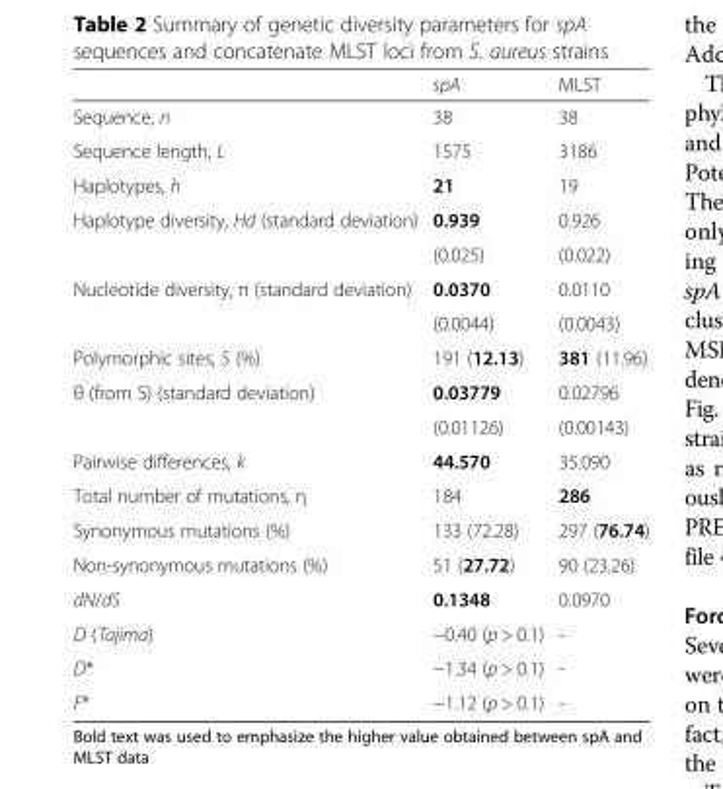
<table><thead><tr><td></td><td>spA</td><td>MLST</td></tr></thead><tbody><tr><td>Sequence, n</td><td>38</td><td>38</td></tr><tr><td>Sequence length, L</td><td>1575</td><td>3186</td></tr><tr><td>Haplotypes, h</td><td>21</td><td>19</td></tr><tr><td rowspan="2">Haplotype diversity, Hd (standard deviation)</td><td>0.939</td><td>0.926</td></tr><tr><td>(0.025)</td><td>(0.022)</td></tr><tr><td rowspan="2">Nucleotide diversity, π (standard deviation)</td><td>0.0370</td><td>0.0110</td></tr><tr><td>(0.0044)</td><td>(0.0043)</td></tr><tr><td>Polymorphic sites, S (%)</td><td>191 (12.13)</td><td>381 (11.96)</td></tr><tr><td rowspan="2">θ (from S) (standard deviation)</td><td>0.03779</td><td>0.02796</td></tr><tr><td>(0.01126)</td><td>(0.00143)</td></tr><tr><td>Pairwise differences, k</td><td>44.570</td><td>35.090</td></tr><tr><td>Total number of mutations, η</td><td>184</td><td>286</td></tr><tr><td>Synonymous mutations (%)</td><td>133 (72.28)</td><td>297 (76.74)</td></tr><tr><td>Non-synonymous mutations (%)</td><td>51 (27.72)</td><td>90 (23.26)</td></tr><tr><td>dN/dS</td><td>0.1348</td><td>0.0970</td></tr><tr><td>D (Tajima)</td><td>−0.40 (p &gt; 0.1)</td><td>-</td></tr><tr><td>D*</td><td>−1.34 (p &gt; 0.1)</td><td>-</td></tr><tr><td>F*</td><td>−1.12 (p &gt; 0.1)</td><td>-</td></tr></tbody></table>